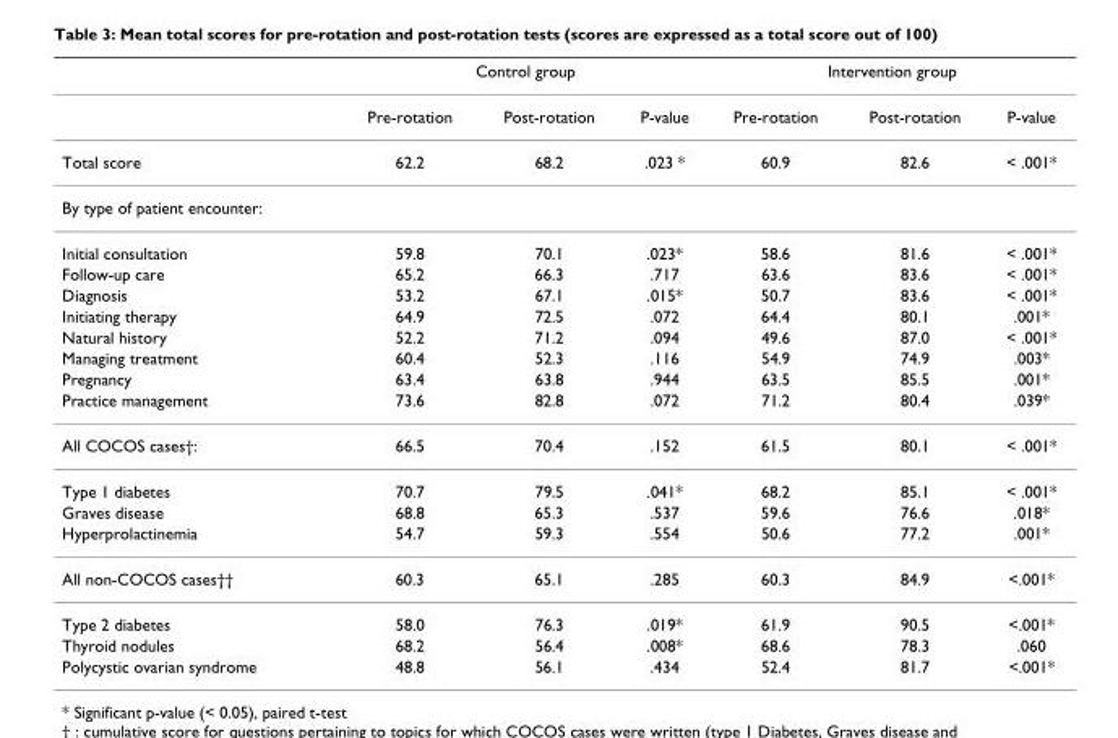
<table><thead><tr><td rowspan="2"></td><td colspan="3">Control group</td><td colspan="3">Intervention group</td></tr><tr><td>Pre-rotation</td><td>Post-rotation</td><td>P-value</td><td>Pre-rotation</td><td>Post-rotation</td><td>P-value</td></tr></thead><tbody><tr><td>Total score</td><td>62.2</td><td>68.2</td><td>.023 *</td><td>60.9</td><td>82.6</td><td>&lt; .001*</td></tr><tr><td colspan="7">By type of patient encounter:</td></tr><tr><td>Initial consultation</td><td>59.8</td><td>70.1</td><td>.023*</td><td>58.6</td><td>81.6</td><td>&lt; .001*</td></tr><tr><td>Follow-up care</td><td>65.2</td><td>66.3</td><td>.717</td><td>63.6</td><td>83.6</td><td>&lt; .001*</td></tr><tr><td>Diagnosis</td><td>53.2</td><td>67.1</td><td>.015*</td><td>50.7</td><td>83.6</td><td>&lt; .001*</td></tr><tr><td>Initiating therapy</td><td>64.9</td><td>72.5</td><td>.072</td><td>64.4</td><td>80.1</td><td>.001*</td></tr><tr><td>Natural history</td><td>52.2</td><td>71.2</td><td>.094</td><td>49.6</td><td>87.0</td><td>&lt; .001*</td></tr><tr><td>Managing treatment</td><td>60.4</td><td>52.3</td><td>.116</td><td>54.9</td><td>74.9</td><td>.003*</td></tr><tr><td>Pregnancy</td><td>63.4</td><td>63.8</td><td>.944</td><td>63.5</td><td>85.5</td><td>.001*</td></tr><tr><td>Practice management</td><td>73.6</td><td>82.8</td><td>.072</td><td>71.2</td><td>80.4</td><td>.039*</td></tr><tr><td>All COCOS cases†:</td><td>66.5</td><td>70.4</td><td>.152</td><td>61.5</td><td>80.1</td><td>&lt; .001*</td></tr><tr><td>Type 1 diabetes</td><td>70.7</td><td>79.5</td><td>.041*</td><td>68.2</td><td>85.1</td><td>&lt; .001*</td></tr><tr><td>Graves disease</td><td>68.8</td><td>65.3</td><td>.537</td><td>59.6</td><td>76.6</td><td>.018*</td></tr><tr><td>Hyperprolactinemia</td><td>54.7</td><td>59.3</td><td>.554</td><td>50.6</td><td>77.2</td><td>.001*</td></tr><tr><td>All non-COCOS cases††</td><td>60.3</td><td>65.1</td><td>.285</td><td>60.3</td><td>84.9</td><td>&lt;.001*</td></tr><tr><td>Type 2 diabetes</td><td>58.0</td><td>76.3</td><td>.019*</td><td>61.9</td><td>90.5</td><td>&lt;.001*</td></tr><tr><td>Thyroid nodules</td><td>68.2</td><td>56.4</td><td>.008*</td><td>68.6</td><td>78.3</td><td>.060</td></tr><tr><td>Polycystic ovarian syndrome</td><td>48.8</td><td>56.1</td><td>.434</td><td>52.4</td><td>81.7</td><td>&lt;.001*</td></tr></tbody></table>